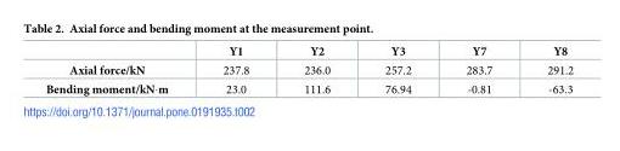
<table><thead><tr><td></td><td>Y1</td><td>Y2</td><td>Y3</td><td>Y7</td><td>Y8</td></tr></thead><tbody><tr><td>Axial force/kN</td><td>237.8</td><td>236.0</td><td>257.2</td><td>283.7</td><td>291.2</td></tr><tr><td>Bending moment/kN·m</td><td>23.0</td><td>111.6</td><td>76.94</td><td>-0.81</td><td>-63.3</td></tr></tbody></table>